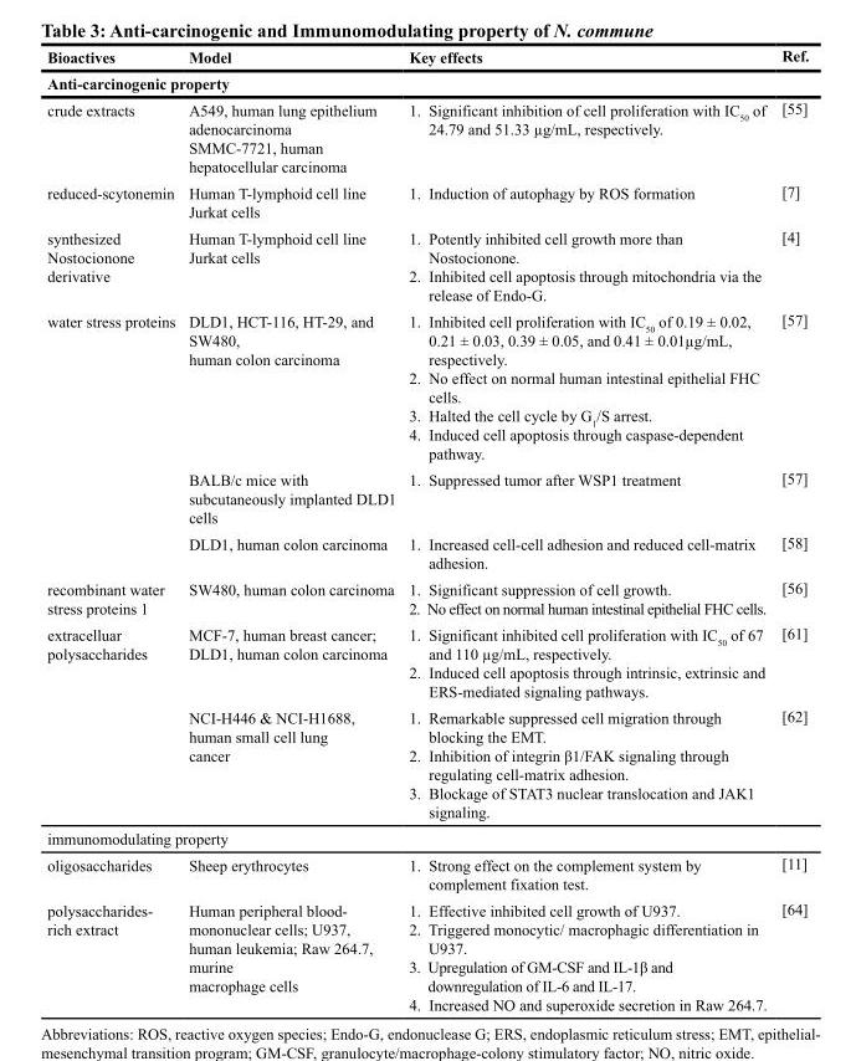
<table><thead><tr><td>Bioactives</td><td>Model</td><td>Key effects</td><td>Ref.</td></tr><tr><td colspan="4">Anti-carcinogenic property</td></tr></thead><tbody><tr><td>crude extracts</td><td>A549, human lung epithelium adenocarcinoma SMMC-7721, human hepatocellular carcinoma</td><td>1. Significant inhibition of cell proliferation with IC<sub>50</sub> of 24.79 and 51.33 µg/mL, respectively.</td><td>[55]</td></tr><tr><td>reduced-scytonemin</td><td>Human T-lymphoid cell line Jurkat cells</td><td>1. Induction of autophagy by ROS formation</td><td>[7]</td></tr><tr><td>synthesized Nostocionone derivative</td><td>Human T-lymphoid cell line Jurkat cells</td><td>1. Potently inhibited cell growth more than Nostocionone. 2. Inhibited cell apoptosis through mitochondria via the release of Endo-G.</td><td>[4]</td></tr><tr><td rowspan="3">water stress proteins</td><td>DLD1, HCT-116, HT-29, and SW480, human colon carcinoma</td><td>1. Inhibited cell proliferation with IC<sub>50</sub> of 0.19 ± 0.02, 0.21 ± 0.03, 0.39 ± 0.05, and 0.41 ± 0.01µg/mL, respectively. 2. No effect on normal human intestinal epithelial FHC cells. 3. Halted the cell cycle by G<sub>1</sub>/S arrest. 4. Induced cell apoptosis through caspase-dependent pathway.</td><td>[57]</td></tr><tr><td>BALB/c mice with subcutaneously implanted DLD1 cells</td><td>1. Suppressed tumor after WSP1 treatment</td><td>[57]</td></tr><tr><td>DLD1, human colon carcinoma</td><td>1. Increased cell-cell adhesion and reduced cell-matrix adhesion.</td><td>[58]</td></tr><tr><td>recombinant water stress proteins 1</td><td>SW480, human colon carcinoma</td><td>1. Significant suppression of cell growth. 2. No effect on normal human intestinal epithelial FHC cells.</td><td>[56]</td></tr><tr><td rowspan="2">extracelluar polysaccharides</td><td>MCF-7, human breast cancer; DLD1, human colon carcinoma</td><td>1. Significant inhibited cell proliferation with IC<sub>50</sub> of 67 and 110 µg/mL, respectively. 2. Induced cell apoptosis through intrinsic, extrinsic and ERS-mediated signaling pathways.</td><td>[61]</td></tr><tr><td>NCI-H446 &amp; NCI-H1688, human small cell lung cancer</td><td>1. Remarkable suppressed cell migration through blocking the EMT. 2. Inhibition of integrin β1/FAK signaling through regulating cell-matrix adhesion. 3. Blockage of STAT3 nuclear translocation and JAK1 signaling.</td><td>[62]</td></tr><tr><td colspan="4">immunomodulating property</td></tr><tr><td>oligosaccharides</td><td>Sheep erythrocytes</td><td>1. Strong effect on the complement system by complement fixation test.</td><td>[11]</td></tr><tr><td>polysaccharides- rich extract</td><td>Human peripheral blood- mononuclear cells; U937, human leukemia; Raw 264.7, murine macrophage cells</td><td>1. Effective inhibited cell growth of U937. 2. Triggered monocytic/ macrophagic differentiation in U937. 3. Upregulation of GM-CSF and IL-1β and downregulation of IL-6 and IL-17. 4. Increased NO and superoxide secretion in Raw 264.7.</td><td>[64]</td></tr></tbody></table>